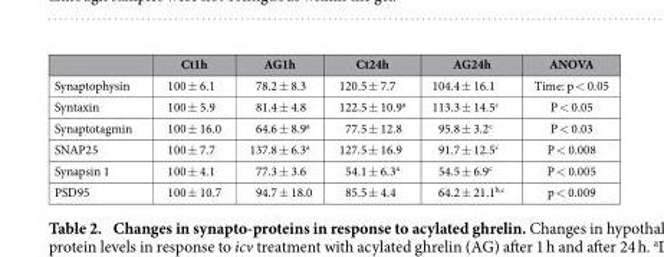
<table><thead><tr><td></td><td>Ct1h</td><td>AG1h</td><td>Ct24h</td><td>AG24h</td><td>ANOVA</td></tr></thead><tbody><tr><td>Synaptophysin</td><td>100 ± 6.1</td><td>78.2 ± 8.3</td><td>120.5 ± 7.7</td><td>104.4 ± 16.1</td><td>Time: p &lt; 0.05</td></tr><tr><td>Syntaxin</td><td>100 ± 5.9</td><td>81.4 ± 4.8</td><td>122.5 ± 10.9<sup>a</sup></td><td>113.3 ± 14.5<sup>c</sup></td><td>P &lt; 0.05</td></tr><tr><td>Synaptotagmin</td><td>100 ± 16.0</td><td>64.6 ± 8.9<sup>a</sup></td><td>77.5 ± 12.8</td><td>95.8 ± 3.2<sup>c</sup></td><td>P &lt; 0.03</td></tr><tr><td>SNAP25</td><td>100 ± 7.7</td><td>137.8 ± 6.3<sup>a</sup></td><td>127.5 ± 16.9</td><td>91.7 ± 12.5<sup>c</sup></td><td>P &lt; 0.008</td></tr><tr><td>Synapsin 1</td><td>100 ± 4.1</td><td>77.3 ± 3.6</td><td>54.1 ± 6.3<sup>a</sup></td><td>54.5 ± 6.9<sup>c</sup></td><td>P &lt; 0.005</td></tr><tr><td>PSD95</td><td>100 ± 10.7</td><td>94.7 ± 18.0</td><td>85.5 ± 4.4</td><td>64.2 ± 21.1b,<sup>c</sup></td><td>p &lt; 0.009</td></tr></tbody></table>